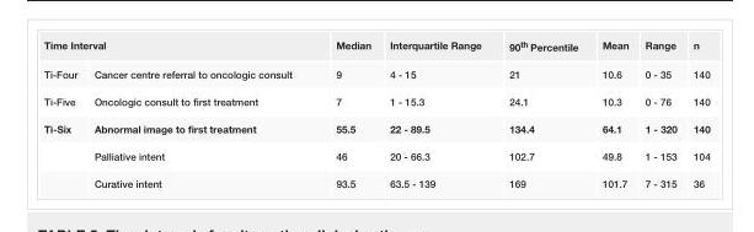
<table><tbody><tr><td colspan="2">Time Interval</td><td>Median</td><td>Interquartile Range</td><td>90<sup>th</sup> Percentile</td><td>Mean</td><td>Range</td><td>n</td></tr><tr><td>Ti-Four</td><td>Cancer centre referral to oncologic consult</td><td>9</td><td>4 - 15</td><td>21</td><td>10.6</td><td>0 - 35</td><td>140</td></tr><tr><td>Ti-Five</td><td>Oncologic consult to first treatment</td><td>7</td><td>1 - 15.3</td><td>24.1</td><td>10.3</td><td>0 - 76</td><td>140</td></tr><tr><td rowspan="3">Ti-Six</td><td>Abnormal image to first treatment</td><td>55.5</td><td>22 - 89.5</td><td>134.4</td><td>64.1</td><td>1 - 320</td><td>140</td></tr><tr><td>Palliative intent</td><td>46</td><td>20 - 66.3</td><td>102.7</td><td>49.8</td><td>1 - 153</td><td>104</td></tr><tr><td>Curative intent</td><td>93.5</td><td>63.5 - 139</td><td>169</td><td>101.7</td><td>7 - 315</td><td>36</td></tr></tbody></table>